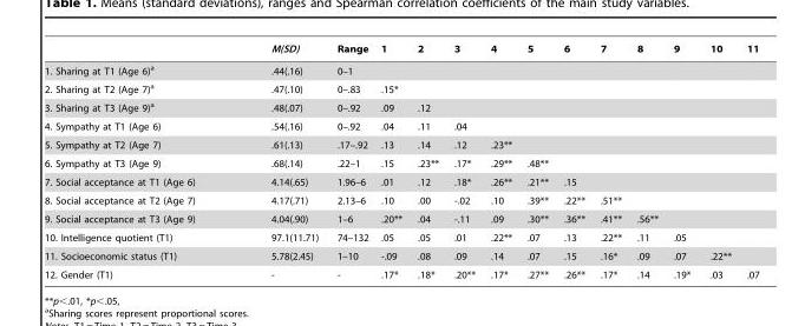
<table><thead><tr><td></td><td>M(SD)</td><td>Range</td><td>1</td><td>2</td><td>3</td><td>4</td><td>5</td><td>6</td><td>7</td><td>8</td><td>9</td><td>10</td><td>11</td></tr></thead><tbody><tr><td>1. Sharing at T1 (Age 6)<sup>a</sup></td><td>.44(.16)</td><td>0–1</td><td></td><td></td><td></td><td></td><td></td><td></td><td></td><td></td><td></td><td></td><td></td></tr><tr><td>2. Sharing at T2 (Age 7)<sup>a</sup></td><td>.47(.10)</td><td>0–.83</td><td>.15*</td><td></td><td></td><td></td><td></td><td></td><td></td><td></td><td></td><td></td><td></td></tr><tr><td>3. Sharing at T3 (Age 9)<sup>a</sup></td><td>.48(.07)</td><td>0–.92</td><td>.09</td><td>.12</td><td></td><td></td><td></td><td></td><td></td><td></td><td></td><td></td><td></td></tr><tr><td>4. Sympathy at T1 (Age 6)</td><td>.54(.16)</td><td>0–.92</td><td>.04</td><td>.11</td><td>.04</td><td></td><td></td><td></td><td></td><td></td><td></td><td></td><td></td></tr><tr><td>5. Sympathy at T2 (Age 7)</td><td>.61(.13)</td><td>.17–.92</td><td>.13</td><td>.14</td><td>.12</td><td>.23**</td><td></td><td></td><td></td><td></td><td></td><td></td><td></td></tr><tr><td>6. Sympathy at T3 (Age 9)</td><td>.68(.14)</td><td>.22–1</td><td>.15</td><td>.23**</td><td>.17*</td><td>.29**</td><td>.48**</td><td></td><td></td><td></td><td></td><td></td><td></td></tr><tr><td>7. Social acceptance at T1 (Age 6)</td><td>4.14(.65)</td><td>1.96–6</td><td>.01</td><td>.12</td><td>.18*</td><td>.26**</td><td>.21**</td><td>.15</td><td></td><td></td><td></td><td></td><td></td></tr><tr><td>8. Social acceptance at T2 (Age 7)</td><td>4.17(.71)</td><td>2.13–6</td><td>.10</td><td>.00</td><td>-.02</td><td>.10</td><td>.39**</td><td>.22**</td><td>.51**</td><td></td><td></td><td></td><td></td></tr><tr><td>9. Social acceptance at T3 (Age 9)</td><td>4.04(.90)</td><td>1–6</td><td>.20**</td><td>.04</td><td>-.11</td><td>.09</td><td>.30**</td><td>.36**</td><td>.41**</td><td>.56**</td><td></td><td></td><td></td></tr><tr><td>10. Intelligence quotient (T1)</td><td>97.1(11.71)</td><td>74–132</td><td>.05</td><td>.05</td><td>.01</td><td>.22**</td><td>.07</td><td>.13</td><td>.22**</td><td>.11</td><td>.05</td><td></td><td></td></tr><tr><td>11. Socioeconomic status (T1)</td><td>5.78(2.45)</td><td>1–10</td><td>-.09</td><td>.08</td><td>.09</td><td>.14</td><td>.07</td><td>.15</td><td>.16*</td><td>.09</td><td>.07</td><td>.22**</td><td></td></tr><tr><td>12. Gender (T1)</td><td>-</td><td>-</td><td>.17*</td><td>.18*</td><td>.20**</td><td>.17*</td><td>.27**</td><td>.26**</td><td>.17*</td><td>.14</td><td>.19*</td><td>.03</td><td>.07</td></tr></tbody></table>